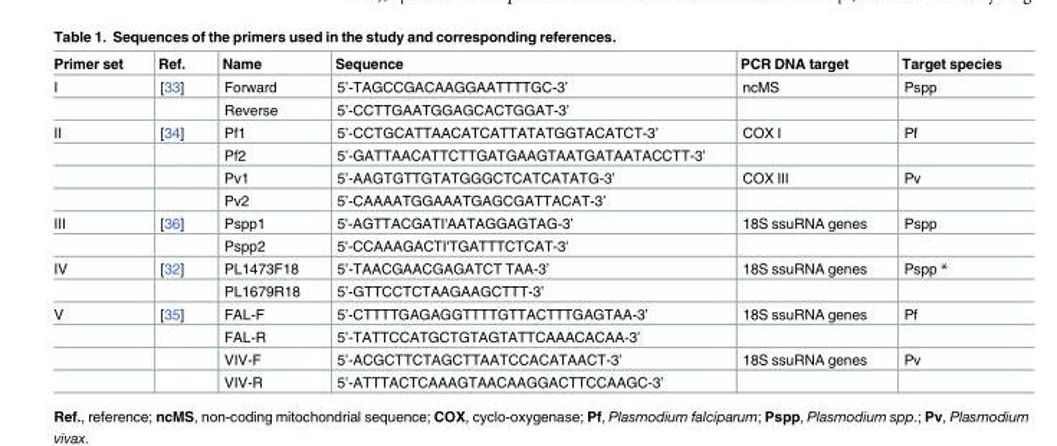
<table><thead><tr><td>Primer set</td><td>Ref.</td><td>Name</td><td>Sequence</td><td>PCR DNA target</td><td>Target species</td></tr></thead><tbody><tr><td rowspan="2">I</td><td>[33]</td><td>Forward</td><td>5’-TAGCCGACAAGGAATTTTGC-3’</td><td>ncMS</td><td>Pspp</td></tr><tr><td></td><td>Reverse</td><td>5’-CCTTGAATGGAGCACTGGAT-3’</td><td></td><td></td></tr><tr><td rowspan="4">II</td><td>[34]</td><td>Pf1</td><td>5’-CCTGCATTAACATCATTATATGGTACATCT-3’</td><td>COX I</td><td>Pf</td></tr><tr><td></td><td>Pf2</td><td>5’-GATTAACATTCTTGATGAAGTAATGATAATACCTT-3’</td><td></td><td></td></tr><tr><td></td><td>Pv1</td><td>5’-AAGTGTTGTATGGGCTCATCATATG-3’</td><td>COX III</td><td>Pv</td></tr><tr><td></td><td>Pv2</td><td>5’-CAAAATGGAAATGAGCGATTACAT-3’</td><td></td><td></td></tr><tr><td rowspan="2">III</td><td>[36]</td><td>Pspp1</td><td>5&#x27;-AGTTACGATI&#x27;AATAGGAGTAG-3’</td><td>18S ssuRNA genes</td><td>Pspp</td></tr><tr><td></td><td>Pspp2</td><td>5&#x27;-CCAAAGACTI&#x27;TGATTTCTCAT-3&#x27;</td><td></td><td></td></tr><tr><td rowspan="2">IV</td><td>[32]</td><td>PL1473F18</td><td>5’-TAACGAACGAGATCT TAA-3’</td><td>18S ssuRNA genes</td><td>Pspp *</td></tr><tr><td></td><td>PL1679R18</td><td>5’-GTTCCTCTAAGAAGCTTT-3’</td><td></td><td></td></tr><tr><td rowspan="4">V</td><td>[35]</td><td>FAL-F</td><td>5’-CTTTTGAGAGGTTTTGTTACTTTGAGTAA-3’</td><td>18S ssuRNA genes</td><td>Pf</td></tr><tr><td></td><td>FAL-R</td><td>5’-TATTCCATGCTGTAGTATTCAAACACAA-3’</td><td></td><td></td></tr><tr><td></td><td>VIV-F</td><td>5’-ACGCTTCTAGCTTAATCCACATAACT-3’</td><td>18S ssuRNA genes</td><td>Pv</td></tr><tr><td></td><td>VIV-R</td><td>5’-ATTTACTCAAAGTAACAAGGACTTCCAAGC-3’</td><td></td><td></td></tr></tbody></table>